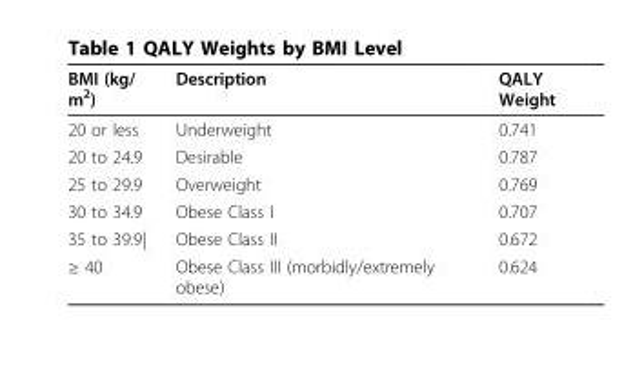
<table><thead><tr><td>BMI (kg/ m<sup>2</sup>)</td><td>Description</td><td>QALY Weight</td></tr></thead><tbody><tr><td>20 or less</td><td>Underweight</td><td>0.741</td></tr><tr><td>20 to 24.9</td><td>Desirable</td><td>0.787</td></tr><tr><td>25 to 29.9</td><td>Overweight</td><td>0.769</td></tr><tr><td>30 to 34.9</td><td>Obese Class I</td><td>0.707</td></tr><tr><td>35 to 39.9|</td><td>Obese Class II</td><td>0.672</td></tr><tr><td>≥ 40</td><td>Obese Class III (morbidly/extremely obese)</td><td>0.624</td></tr></tbody></table>